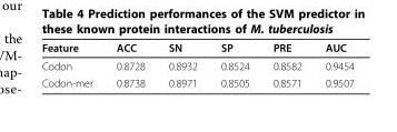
<table><thead><tr><td>Feature</td><td>ACC</td><td>SN</td><td>SP</td><td>PRE</td><td>AUC</td></tr></thead><tbody><tr><td>Codon</td><td>0.8728</td><td>0.8932</td><td>0.8524</td><td>0.8582</td><td>0.9454</td></tr><tr><td>Codon-mer</td><td>0.8738</td><td>0.8971</td><td>0.8505</td><td>0.8571</td><td>0.9507</td></tr></tbody></table>